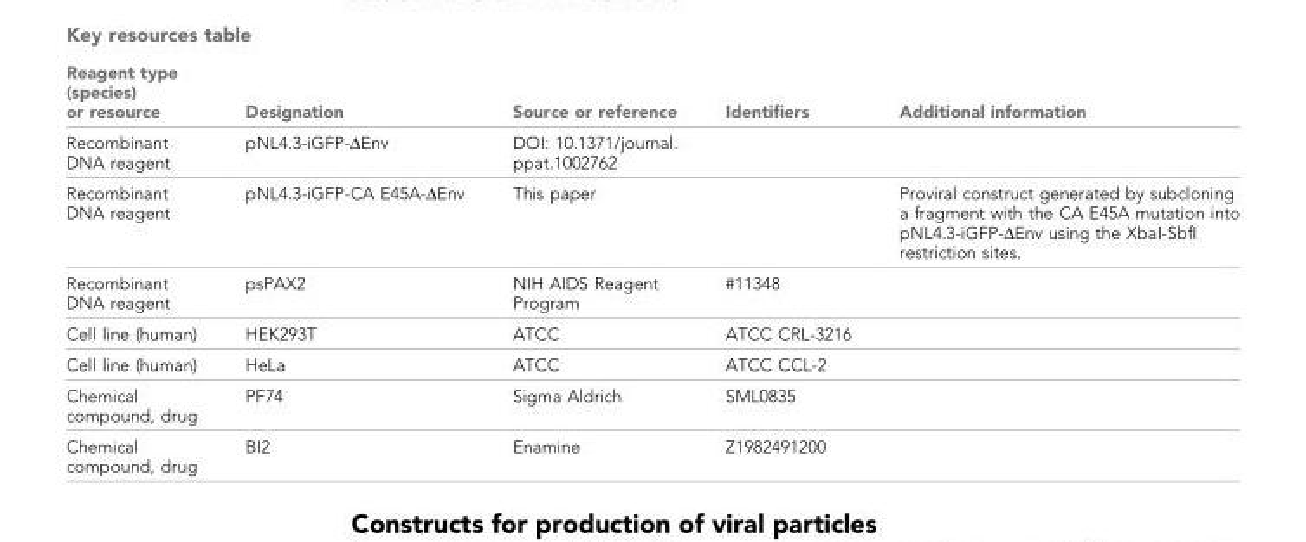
<table><thead><tr><td>Reagent type (species) or resource</td><td>Designation</td><td>Source or reference</td><td>Identifiers</td><td>Additional information</td></tr></thead><tbody><tr><td>Recombinant DNA reagent</td><td>pNL4.3-iGFP-ΔEnv</td><td>DOI: 10.1371/journal. ppat.1002762</td><td></td><td></td></tr><tr><td>Recombinant DNA reagent</td><td>pNL4.3-iGFP-CA E45A-ΔEnv</td><td>This paper</td><td></td><td>Proviral construct generated by subcloning a fragment with the CA E45A mutation into pNL4.3-iGFP-ΔEnv using the XbaI-SbfI restriction sites.</td></tr><tr><td>Recombinant DNA reagent</td><td>psPAX2</td><td>NIH AIDS Reagent Program</td><td>#11348</td><td></td></tr><tr><td>Cell line (human)</td><td>HEK293T</td><td>ATCC</td><td>ATCC CRL-3216</td><td></td></tr><tr><td>Cell line (human)</td><td>HeLa</td><td>ATCC</td><td>ATCC CCL-2</td><td></td></tr><tr><td>Chemical compound, drug</td><td>PF74</td><td>Sigma Aldrich</td><td>SML0835</td><td></td></tr><tr><td>Chemical compound, drug</td><td>BI2</td><td>Enamine</td><td>Z1982491200</td><td></td></tr></tbody></table>